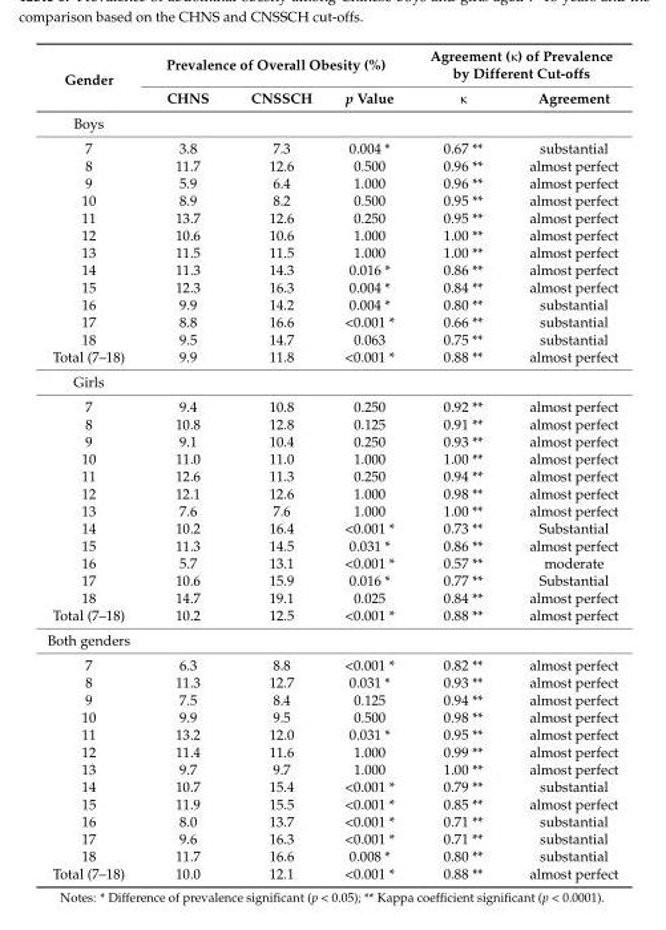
<table><thead><tr><td rowspan="2">Gender</td><td colspan="3">Prevalence of Overall Obesity (%)</td><td colspan="2">Agreement (κ) of Prevalence by Different Cut-offs</td></tr><tr><td>CHNS</td><td>CNSSCH</td><td>p Value</td><td>κ</td><td>Agreement</td></tr></thead><tbody><tr><td colspan="6">Boys</td></tr><tr><td>7</td><td>3.8</td><td>7.3</td><td>0.004 *</td><td>0.67 **</td><td>substantial</td></tr><tr><td>8</td><td>11.7</td><td>12.6</td><td>0.500</td><td>0.96 **</td><td>almost perfect</td></tr><tr><td>9</td><td>5.9</td><td>6.4</td><td>1.000</td><td>0.96 **</td><td>almost perfect</td></tr><tr><td>10</td><td>8.9</td><td>8.2</td><td>0.500</td><td>0.95 **</td><td>almost perfect</td></tr><tr><td>11</td><td>13.7</td><td>12.6</td><td>0.250</td><td>0.95 **</td><td>almost perfect</td></tr><tr><td>12</td><td>10.6</td><td>10.6</td><td>1.000</td><td>1.00 **</td><td>almost perfect</td></tr><tr><td>13</td><td>11.5</td><td>11.5</td><td>1.000</td><td>1.00 **</td><td>almost perfect</td></tr><tr><td>14</td><td>11.3</td><td>14.3</td><td>0.016 *</td><td>0.86 **</td><td>almost perfect</td></tr><tr><td>15</td><td>12.3</td><td>16.3</td><td>0.004 *</td><td>0.84 **</td><td>almost perfect</td></tr><tr><td>16</td><td>9.9</td><td>14.2</td><td>0.004 *</td><td>0.80 **</td><td>substantial</td></tr><tr><td>17</td><td>8.8</td><td>16.6</td><td>&lt;0.001 *</td><td>0.66 **</td><td>substantial</td></tr><tr><td>18</td><td>9.5</td><td>14.7</td><td>0.063</td><td>0.75 **</td><td>substantial</td></tr><tr><td>Total (7–18)</td><td>9.9</td><td>11.8</td><td>&lt;0.001 *</td><td>0.88 **</td><td>almost perfect</td></tr><tr><td colspan="6">Girls</td></tr><tr><td>7</td><td>9.4</td><td>10.8</td><td>0.250</td><td>0.92 **</td><td>almost perfect</td></tr><tr><td>8</td><td>10.8</td><td>12.8</td><td>0.125</td><td>0.91 **</td><td>almost perfect</td></tr><tr><td>9</td><td>9.1</td><td>10.4</td><td>0.250</td><td>0.93 **</td><td>almost perfect</td></tr><tr><td>10</td><td>11.0</td><td>11.0</td><td>1.000</td><td>1.00 **</td><td>almost perfect</td></tr><tr><td>11</td><td>12.6</td><td>11.3</td><td>0.250</td><td>0.94 **</td><td>almost perfect</td></tr><tr><td>12</td><td>12.1</td><td>12.6</td><td>1.000</td><td>0.98 **</td><td>almost perfect</td></tr><tr><td>13</td><td>7.6</td><td>7.6</td><td>1.000</td><td>1.00 **</td><td>almost perfect</td></tr><tr><td>14</td><td>10.2</td><td>16.4</td><td>&lt;0.001 *</td><td>0.73 **</td><td>Substantial</td></tr><tr><td>15</td><td>11.3</td><td>14.5</td><td>0.031 *</td><td>0.86 **</td><td>almost perfect</td></tr><tr><td>16</td><td>5.7</td><td>13.1</td><td>&lt;0.001 *</td><td>0.57 **</td><td>moderate</td></tr><tr><td>17</td><td>10.6</td><td>15.9</td><td>0.016 *</td><td>0.77 **</td><td>Substantial</td></tr><tr><td>18</td><td>14.7</td><td>19.1</td><td>0.025</td><td>0.84 **</td><td>almost perfect</td></tr><tr><td>Total (7–18)</td><td>10.2</td><td>12.5</td><td>&lt;0.001 *</td><td>0.88 **</td><td>almost perfect</td></tr><tr><td colspan="6">Both genders</td></tr><tr><td>7</td><td>6.3</td><td>8.8</td><td>&lt;0.001 *</td><td>0.82 **</td><td>almost perfect</td></tr><tr><td>8</td><td>11.3</td><td>12.7</td><td>0.031 *</td><td>0.93 **</td><td>almost perfect</td></tr><tr><td>9</td><td>7.5</td><td>8.4</td><td>0.125</td><td>0.94 **</td><td>almost perfect</td></tr><tr><td>10</td><td>9.9</td><td>9.5</td><td>0.500</td><td>0.98 **</td><td>almost perfect</td></tr><tr><td>11</td><td>13.2</td><td>12.0</td><td>0.031 *</td><td>0.95 **</td><td>almost perfect</td></tr><tr><td>12</td><td>11.4</td><td>11.6</td><td>1.000</td><td>0.99 **</td><td>almost perfect</td></tr><tr><td>13</td><td>9.7</td><td>9.7</td><td>1.000</td><td>1.00 **</td><td>almost perfect</td></tr><tr><td>14</td><td>10.7</td><td>15.4</td><td>&lt;0.001 *</td><td>0.79 **</td><td>substantial</td></tr><tr><td>15</td><td>11.9</td><td>15.5</td><td>&lt;0.001 *</td><td>0.85 **</td><td>almost perfect</td></tr><tr><td>16</td><td>8.0</td><td>13.7</td><td>&lt;0.001 *</td><td>0.71 **</td><td>substantial</td></tr><tr><td>17</td><td>9.6</td><td>16.3</td><td>&lt;0.001 *</td><td>0.71 **</td><td>substantial</td></tr><tr><td>18</td><td>11.7</td><td>16.6</td><td>0.008 *</td><td>0.80 **</td><td>substantial</td></tr><tr><td>Total (7–18)</td><td>10.0</td><td>12.1</td><td>&lt;0.001 *</td><td>0.88 **</td><td>almost perfect</td></tr></tbody></table>